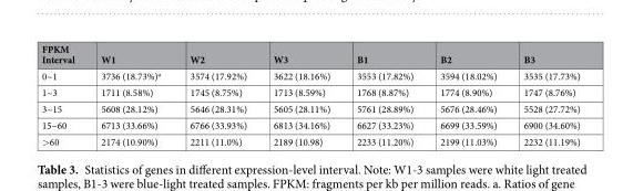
<table><thead><tr><td>FPKM Interval</td><td>W1</td><td>W2</td><td>W3</td><td>B1</td><td>B2</td><td>B3</td></tr></thead><tbody><tr><td>0~1</td><td>3736 (18.73%)<sup>a</sup></td><td>3574 (17.92%)</td><td>3622 (18.16%)</td><td>3553 (17.82%)</td><td>3594 (18.02%)</td><td>3535 (17.73%)</td></tr><tr><td>1~3</td><td>1711 (8.58%)</td><td>1745 (8.75%)</td><td>1713 (8.59%)</td><td>1768 (8.87%)</td><td>1774 (8.90%)</td><td>1747 (8.76%)</td></tr><tr><td>3~15</td><td>5608 (28.12%)</td><td>5646 (28.31%)</td><td>5605 (28.11%)</td><td>5761 (28.89%)</td><td>5676 (28.46%)</td><td>5528 (27.72%)</td></tr><tr><td>15~60</td><td>6713 (33.66%)</td><td>6766 (33.93%)</td><td>6813 (34.16%)</td><td>6627 (33.23%)</td><td>6699 (33.59%)</td><td>6900 (34.60%)</td></tr><tr><td>&gt;60</td><td>2174 (10.90%)</td><td>2211 (11.0%)</td><td>2189 (10.98)</td><td>2233 (11.20%)</td><td>2199 (11.03%)</td><td>2232 (11.19%)</td></tr></tbody></table>